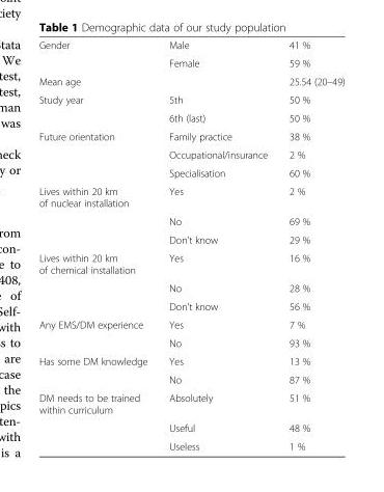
<table><tbody><tr><td rowspan="2">Gender</td><td>Male</td><td>41 %</td></tr><tr><td>Female</td><td>59 %</td></tr><tr><td>Mean age</td><td></td><td>25.54 (20–49)</td></tr><tr><td rowspan="2">Study year</td><td>5th</td><td>50 %</td></tr><tr><td>6th (last)</td><td>50 %</td></tr><tr><td rowspan="3">Future orientation</td><td>Family practice</td><td>38 %</td></tr><tr><td>Occupational/insurance</td><td>2 %</td></tr><tr><td>Specialisation</td><td>60 %</td></tr><tr><td rowspan="3">Lives within 20 km of nuclear installation</td><td>Yes</td><td>2 %</td></tr><tr><td>No</td><td>69 %</td></tr><tr><td>Don’t know</td><td>29 %</td></tr><tr><td rowspan="3">Lives within 20 km of chemical installation</td><td>Yes</td><td>16 %</td></tr><tr><td>No</td><td>28 %</td></tr><tr><td>Don’t know</td><td>56 %</td></tr><tr><td rowspan="2">Any EMS/DM experience</td><td>Yes</td><td>7 %</td></tr><tr><td>No</td><td>93 %</td></tr><tr><td rowspan="2">Has some DM knowledge</td><td>Yes</td><td>13 %</td></tr><tr><td>No</td><td>87 %</td></tr><tr><td rowspan="3">DM needs to be trained within curriculum</td><td>Absolutely</td><td>51 %</td></tr><tr><td>Useful</td><td>48 %</td></tr><tr><td>Useless</td><td>1 %</td></tr></tbody></table>